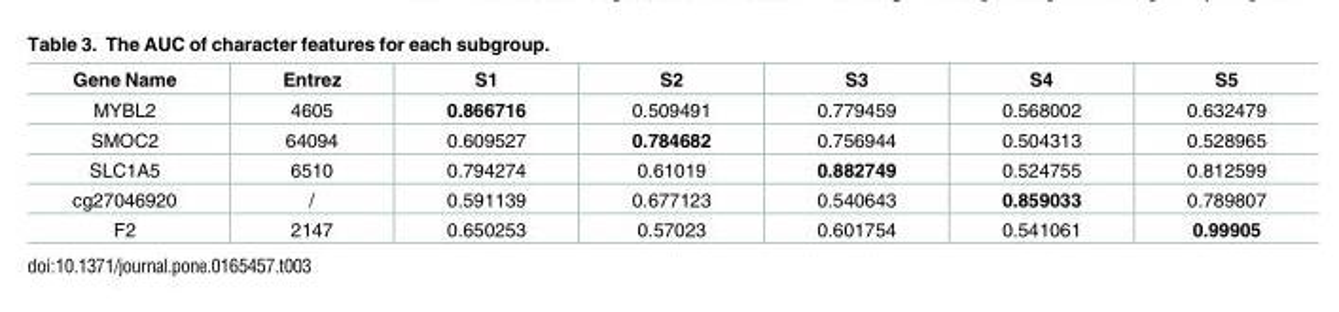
<table><thead><tr><td>Gene Name</td><td>Entrez</td><td>S1</td><td>S2</td><td>S3</td><td>S4</td><td>S5</td></tr></thead><tbody><tr><td>MYBL2</td><td>4605</td><td>0.866716</td><td>0.509491</td><td>0.779459</td><td>0.568002</td><td>0.632479</td></tr><tr><td>SMOC2</td><td>64094</td><td>0.609527</td><td>0.784682</td><td>0.756944</td><td>0.504313</td><td>0.528965</td></tr><tr><td>SLC1A5</td><td>6510</td><td>0.794274</td><td>0.61019</td><td>0.882749</td><td>0.524755</td><td>0.812599</td></tr><tr><td>cg27046920</td><td>/</td><td>0.591139</td><td>0.677123</td><td>0.540643</td><td>0.859033</td><td>0.789807</td></tr><tr><td>F2</td><td>2147</td><td>0.650253</td><td>0.57023</td><td>0.601754</td><td>0.541061</td><td>0.99905</td></tr></tbody></table>